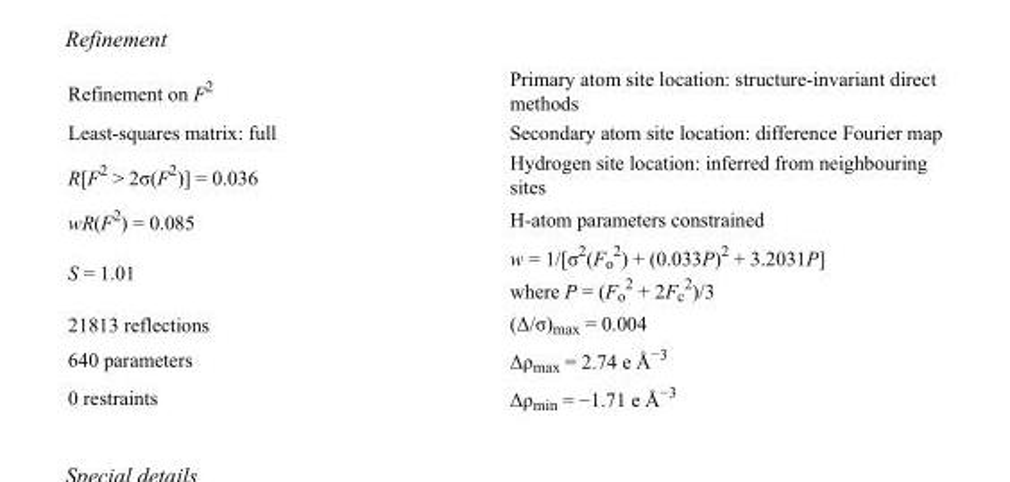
<table><tbody><tr><td>Refinement on F<sup>2</sup></td><td>Primary atom site location: structure-invariant direct methods</td></tr><tr><td>Least-squares matrix: full</td><td>Secondary atom site location: difference Fourier map</td></tr><tr><td>R[F<sup>2</sup> &gt; 2σ(F<sup>2</sup>)] = 0.036</td><td>Hydrogen site location: inferred from neighbouring sites</td></tr><tr><td>wR(F<sup>2</sup>) = 0.085</td><td>H-atom parameters constrained</td></tr><tr><td>S = 1.01</td><td>w = 1/[σ<sup>2</sup>(F<sub>o</sub> <sup>2</sup>) + (0.033P)<sup>2</sup> + 3.2031P] where P = (F<sub>o</sub> <sup>2</sup> + 2F<sub>c</sub> <sup>2</sup>)/3</td></tr><tr><td>21813 reflections</td><td>(Δ/σ)<sub>max</sub> = 0.004</td></tr><tr><td>640 parameters</td><td>Δρ<sub>max</sub> = 2.74 e Å<sup>−3</sup></td></tr><tr><td>0 restraints</td><td>Δρ<sub>min</sub> = −1.71 e Å<sup>−3</sup></td></tr></tbody></table>